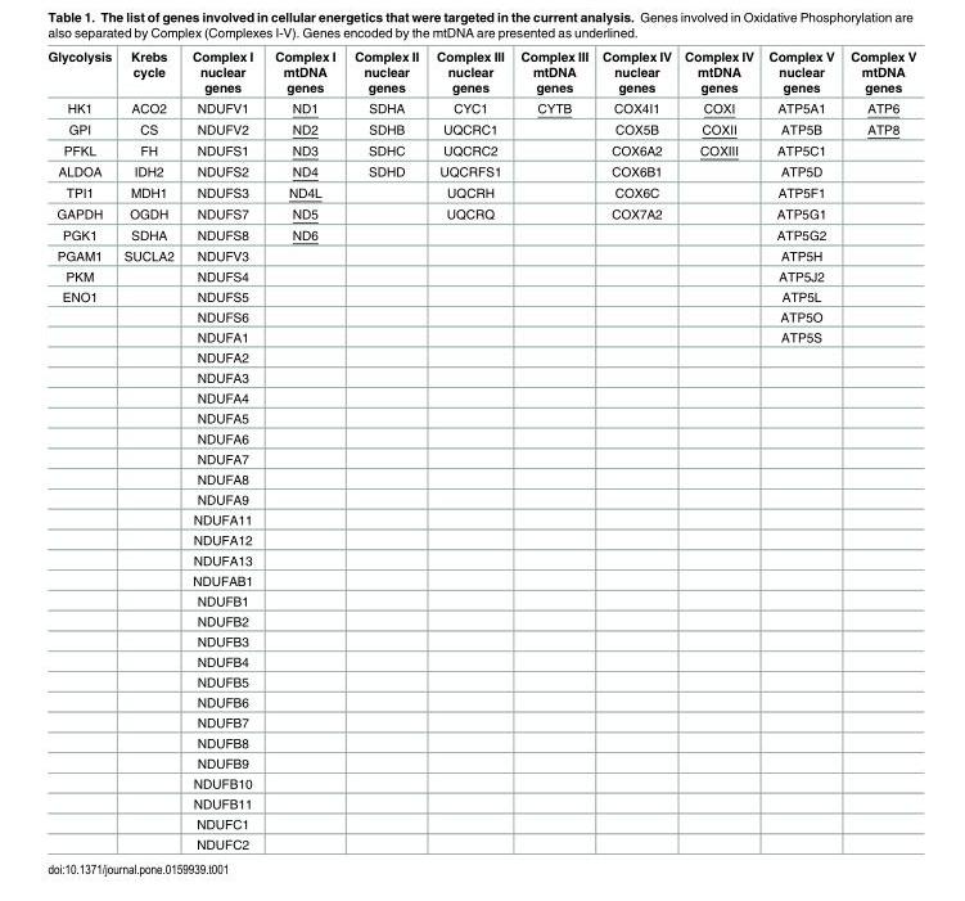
<table><thead><tr><td>Glycolysis</td><td>Krebs cycle</td><td>Complex I nuclear genes</td><td>Complex I mtDNA genes</td><td>Complex II nuclear genes</td><td>Complex III nuclear genes</td><td>Complex III mtDNA genes</td><td>Complex IV nuclear genes</td><td>Complex IV mtDNA genes</td><td>Complex V nuclear genes</td><td>Complex V mtDNA genes</td></tr></thead><tbody><tr><td>HK1</td><td>ACO2</td><td>NDUFV1</td><td>ND1</td><td>SDHA</td><td>CYC1</td><td>CYTB</td><td>COX4I1</td><td>COXI</td><td>ATP5A1</td><td>ATP6</td></tr><tr><td>GPI</td><td>CS</td><td>NDUFV2</td><td>ND2</td><td>SDHB</td><td>UQCRC1</td><td></td><td>COX5B</td><td>COXII</td><td>ATP5B</td><td>ATP8</td></tr><tr><td>PFKL</td><td>FH</td><td>NDUFS1</td><td>ND3</td><td>SDHC</td><td>UQCRC2</td><td></td><td>COX6A2</td><td>COXIII</td><td>ATP5C1</td><td></td></tr><tr><td>ALDOA</td><td>IDH2</td><td>NDUFS2</td><td>ND4</td><td>SDHD</td><td>UQCRFS1</td><td></td><td>COX6B1</td><td></td><td>ATP5D</td><td></td></tr><tr><td>TPI1</td><td>MDH1</td><td>NDUFS3</td><td>ND4L</td><td></td><td>UQCRH</td><td></td><td>COX6C</td><td></td><td>ATP5F1</td><td></td></tr><tr><td>GAPDH</td><td>OGDH</td><td>NDUFS7</td><td>ND5</td><td></td><td>UQCRQ</td><td></td><td>COX7A2</td><td></td><td>ATP5G1</td><td></td></tr><tr><td>PGK1</td><td>SDHA</td><td>NDUFS8</td><td>ND6</td><td></td><td></td><td></td><td></td><td></td><td>ATP5G2</td><td></td></tr><tr><td>PGAM1</td><td>SUCLA2</td><td>NDUFV3</td><td></td><td></td><td></td><td></td><td></td><td></td><td>ATP5H</td><td></td></tr><tr><td>PKM</td><td></td><td>NDUFS4</td><td></td><td></td><td></td><td></td><td></td><td></td><td>ATP5J2</td><td></td></tr><tr><td rowspan="28">ENO1</td><td></td><td>NDUFS5</td><td></td><td></td><td></td><td></td><td></td><td></td><td>ATP5L</td><td></td></tr><tr><td></td><td>NDUFS6</td><td></td><td></td><td></td><td></td><td></td><td></td><td>ATP5O</td><td></td></tr><tr><td></td><td>NDUFA1</td><td></td><td></td><td></td><td></td><td></td><td></td><td>ATP5S</td><td></td></tr><tr><td></td><td>NDUFA2</td><td></td><td></td><td></td><td></td><td></td><td></td><td></td><td></td></tr><tr><td></td><td>NDUFA3</td><td></td><td></td><td></td><td></td><td></td><td></td><td></td><td></td></tr><tr><td></td><td>NDUFA4</td><td></td><td></td><td></td><td></td><td></td><td></td><td></td><td></td></tr><tr><td></td><td>NDUFA5</td><td></td><td></td><td></td><td></td><td></td><td></td><td></td><td></td></tr><tr><td></td><td>NDUFA6</td><td></td><td></td><td></td><td></td><td></td><td></td><td></td><td></td></tr><tr><td></td><td>NDUFA7</td><td></td><td></td><td></td><td></td><td></td><td></td><td></td><td></td></tr><tr><td></td><td>NDUFA8</td><td></td><td></td><td></td><td></td><td></td><td></td><td></td><td></td></tr><tr><td></td><td>NDUFA9</td><td></td><td></td><td></td><td></td><td></td><td></td><td></td><td></td></tr><tr><td></td><td>NDUFA11</td><td></td><td></td><td></td><td></td><td></td><td></td><td></td><td></td></tr><tr><td></td><td>NDUFA12</td><td></td><td></td><td></td><td></td><td></td><td></td><td></td><td></td></tr><tr><td></td><td>NDUFA13</td><td></td><td></td><td></td><td></td><td></td><td></td><td></td><td></td></tr><tr><td></td><td>NDUFAB1</td><td></td><td></td><td></td><td></td><td></td><td></td><td></td><td></td></tr><tr><td></td><td>NDUFB1</td><td></td><td></td><td></td><td></td><td></td><td></td><td></td><td></td></tr><tr><td></td><td>NDUFB2</td><td></td><td></td><td></td><td></td><td></td><td></td><td></td><td></td></tr><tr><td></td><td>NDUFB3</td><td></td><td></td><td></td><td></td><td></td><td></td><td></td><td></td></tr><tr><td></td><td>NDUFB4</td><td></td><td></td><td></td><td></td><td></td><td></td><td></td><td></td></tr><tr><td></td><td>NDUFB5</td><td></td><td></td><td></td><td></td><td></td><td></td><td></td><td></td></tr><tr><td></td><td>NDUFB6</td><td></td><td></td><td></td><td></td><td></td><td></td><td></td><td></td></tr><tr><td></td><td>NDUFB7</td><td></td><td></td><td></td><td></td><td></td><td></td><td></td><td></td></tr><tr><td></td><td>NDUFB8</td><td></td><td></td><td></td><td></td><td></td><td></td><td></td><td></td></tr><tr><td></td><td>NDUFB9</td><td></td><td></td><td></td><td></td><td></td><td></td><td></td><td></td></tr><tr><td></td><td>NDUFB10</td><td></td><td></td><td></td><td></td><td></td><td></td><td></td><td></td></tr><tr><td></td><td>NDUFB11</td><td></td><td></td><td></td><td></td><td></td><td></td><td></td><td></td></tr><tr><td></td><td>NDUFC1</td><td></td><td></td><td></td><td></td><td></td><td></td><td></td><td></td></tr><tr><td></td><td>NDUFC2</td><td></td><td></td><td></td><td></td><td></td><td></td><td></td><td></td></tr></tbody></table>